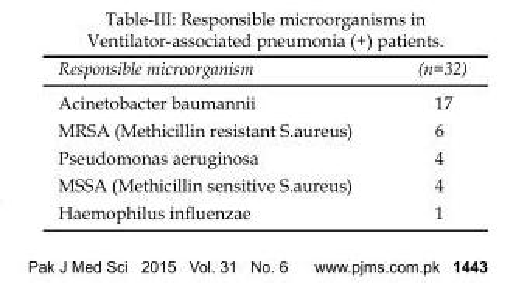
<table><thead><tr><td>Responsible microorganism</td><td>(n=32)</td></tr></thead><tbody><tr><td>Acinetobacter baumannii</td><td>17</td></tr><tr><td>MRSA (Methicillin resistant S.aureus)</td><td>6</td></tr><tr><td>Pseudomonas aeruginosa</td><td>4</td></tr><tr><td>MSSA (Methicillin sensitive S.aureus)</td><td>4</td></tr><tr><td>Haemophilus influenzae</td><td>1</td></tr></tbody></table>